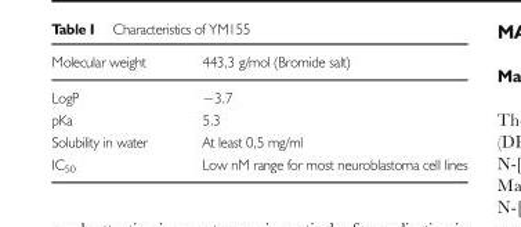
<table><thead><tr><td>Molecular weight</td><td>443,3 g/mol (Bromide salt)</td></tr></thead><tbody><tr><td>LogP</td><td>−3.7</td></tr><tr><td>pKa</td><td>5.3</td></tr><tr><td>Solubility in water</td><td>At least 0,5 mg/ml</td></tr><tr><td>IC<sub>50</sub></td><td>Low nM range for most neuroblastoma cell lines</td></tr></tbody></table>